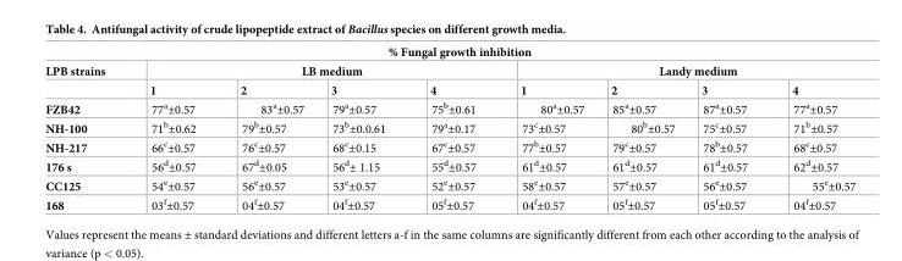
<table><thead><tr><td colspan="9">% Fungal growth inhibition</td></tr><tr><td rowspan="2">LPB strains</td><td colspan="4">LB medium</td><td colspan="4">Landy medium</td></tr><tr><td>1</td><td>2</td><td>3</td><td>4</td><td>1</td><td>2</td><td>3</td><td>4</td></tr></thead><tbody><tr><td>FZB42</td><td>77<sup>a</sup>±0.57</td><td>83<sup>a</sup>±0.57</td><td>79<sup>a</sup>±0.57</td><td>75<sup>b</sup>±0.61</td><td>80<sup>a</sup>±0.57</td><td>85<sup>a</sup>±0.57</td><td>87<sup>a</sup>±0.57</td><td>77<sup>a</sup>±0.57</td></tr><tr><td>NH-100</td><td>71<sup>b</sup>±0.62</td><td>79<sup>b</sup>±0.57</td><td>73<sup>b</sup>±0.0.61</td><td>79<sup>a</sup>±0.17</td><td>73<sup>c</sup>±0.57</td><td>80<sup>b</sup>±0.57</td><td>75<sup>c</sup>±0.57</td><td>71<sup>b</sup>±0.57</td></tr><tr><td>NH-217</td><td>66<sup>c</sup>±0.57</td><td>76<sup>c</sup>±0.57</td><td>68<sup>c</sup>±0.15</td><td>67<sup>c</sup>±0.57</td><td>77<sup>b</sup>±0.57</td><td>79<sup>c</sup>±0.57</td><td>78<sup>b</sup>±0.57</td><td>68<sup>c</sup>±0.57</td></tr><tr><td>176 s</td><td>56<sup>d</sup>±0.57</td><td>67<sup>d</sup>±0.05</td><td>56<sup>d</sup>± 1.15</td><td>55<sup>d</sup>±0.57</td><td>61<sup>d</sup>±0.57</td><td>61<sup>d</sup>±0.57</td><td>61<sup>d</sup>±0.57</td><td>62<sup>d</sup>±0.57</td></tr><tr><td>CC125</td><td>54<sup>e</sup>±0.57</td><td>56<sup>e</sup>±0.57</td><td>53<sup>e</sup>±0.57</td><td>52<sup>e</sup>±0.57</td><td>58<sup>e</sup>±0.57</td><td>57<sup>e</sup>±0.57</td><td>56<sup>e</sup>±0.57</td><td>55<sup>e</sup>±0.57</td></tr><tr><td>168</td><td>03<sup>f</sup>±0.57</td><td>04<sup>f</sup>±0.57</td><td>04<sup>f</sup>±0.57</td><td>05<sup>f</sup>±0.57</td><td>04<sup>f</sup>±0.57</td><td>05<sup>f</sup>±0.57</td><td>05<sup>f</sup>±0.57</td><td>04<sup>f</sup>±0.57</td></tr></tbody></table>